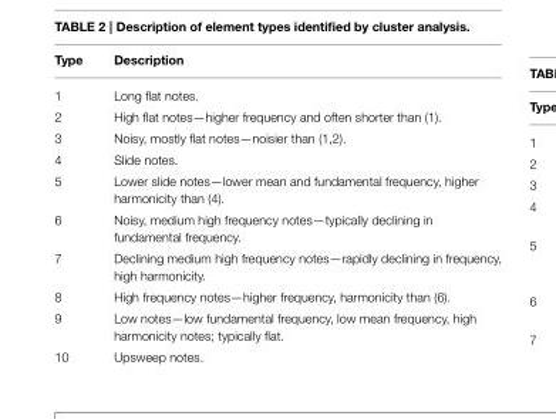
<table><thead><tr><td>Type</td><td>Description</td></tr></thead><tbody><tr><td>1</td><td>Long flat notes.</td></tr><tr><td>2</td><td>High flat notes—higher frequency and often shorter than (1).</td></tr><tr><td>3</td><td>Noisy, mostly flat notes—noisier than (1,2).</td></tr><tr><td>4</td><td>Slide notes.</td></tr><tr><td>5</td><td>Lower slide notes—lower mean and fundamental frequency, higher harmonicity than (4).</td></tr><tr><td>6</td><td>Noisy, medium high frequency notes—typically declining in fundamental frequency.</td></tr><tr><td>7</td><td>Declining medium high frequency notes—rapidly declining in frequency, high harmonicity.</td></tr><tr><td>8</td><td>High frequency notes—higher frequency, harmonicity than (6).</td></tr><tr><td>9</td><td>Low notes—low fundamental frequency, low mean frequency, high harmonicity notes; typically flat.</td></tr><tr><td>10</td><td>Upsweep notes.</td></tr></tbody></table>